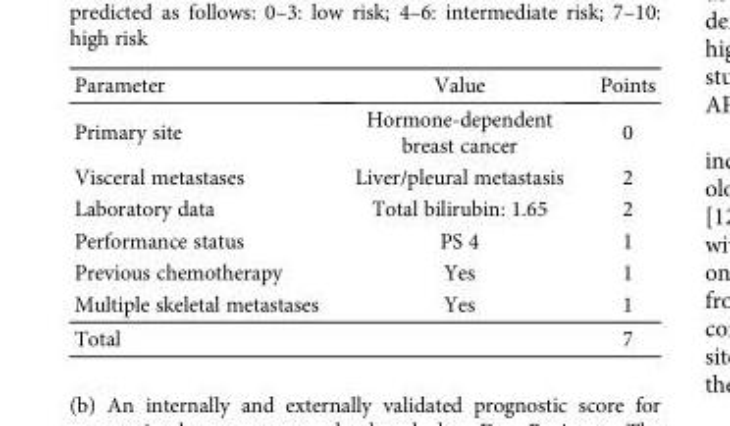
<table><thead><tr><td>Parameter</td><td>Value</td><td>Points</td></tr></thead><tbody><tr><td>Primary site</td><td>Hormone-dependent breast cancer</td><td>0</td></tr><tr><td>Visceral metastases</td><td>Liver/pleural metastasis</td><td>2</td></tr><tr><td>Laboratory data</td><td>Total bilirubin: 1.65</td><td>2</td></tr><tr><td>Performance status</td><td>PS 4</td><td>1</td></tr><tr><td>Previous chemotherapy</td><td>Yes</td><td>1</td></tr><tr><td>Multiple skeletal metastases</td><td>Yes</td><td>1</td></tr><tr><td>Total</td><td></td><td>7</td></tr></tbody></table>